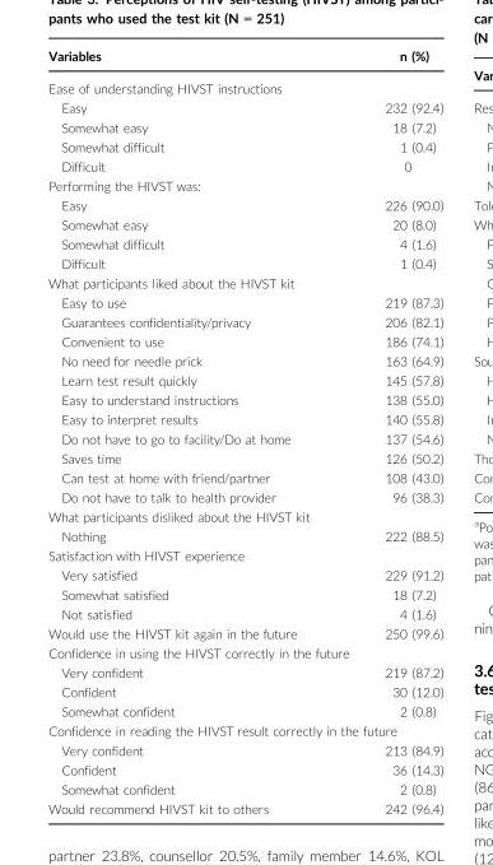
<table><thead><tr><td>Variables</td><td>n (%)</td></tr></thead><tbody><tr><td colspan="2">Ease of understanding HIVST instructions</td></tr><tr><td>Easy</td><td>232 (92.4)</td></tr><tr><td>Somewhat easy</td><td>18 (7.2)</td></tr><tr><td>Somewhat difficult</td><td>1 (0.4)</td></tr><tr><td>Difficult</td><td>0</td></tr><tr><td colspan="2">Performing the HIVST was:</td></tr><tr><td>Easy</td><td>226 (90.0)</td></tr><tr><td>Somewhat easy</td><td>20 (8.0)</td></tr><tr><td>Somewhat difficult</td><td>4 (1.6)</td></tr><tr><td>Difficult</td><td>1 (0.4)</td></tr><tr><td colspan="2">What participants liked about the HIVST kit</td></tr><tr><td>Easy to use</td><td>219 (87.3)</td></tr><tr><td>Guarantees confidentiality/privacy</td><td>206 (82.1)</td></tr><tr><td>Convenient to use</td><td>186 (74.1)</td></tr><tr><td>No need for needle prick</td><td>163 (64.9)</td></tr><tr><td>Learn test result quickly</td><td>145 (57.8)</td></tr><tr><td>Easy to understand instructions</td><td>138 (55.0)</td></tr><tr><td>Easy to interpret results</td><td>140 (55.8)</td></tr><tr><td>Do not have to go to facility/Do at home</td><td>137 (54.6)</td></tr><tr><td>Saves time</td><td>126 (50.2)</td></tr><tr><td>Can test at home with friend/partner</td><td>108 (43.0)</td></tr><tr><td>Do not have to talk to health provider</td><td>96 (38.3)</td></tr><tr><td colspan="2">What participants disliked about the HIVST kit</td></tr><tr><td>Nothing</td><td>222 (88.5)</td></tr><tr><td colspan="2">Satisfaction with HIVST experience</td></tr><tr><td>Very satisfied</td><td>229 (91.2)</td></tr><tr><td>Somewhat satisfied</td><td>18 (7.2)</td></tr><tr><td>Not satisfied</td><td>4 (1.6)</td></tr><tr><td>Would use the HIVST kit again in the future</td><td>250 (99.6)</td></tr><tr><td colspan="2">Confidence in using the HIVST correctly in the future</td></tr><tr><td>Very confident</td><td>219 (87.2)</td></tr><tr><td>Confident</td><td>30 (12.0)</td></tr><tr><td>Somewhat confident</td><td>2 (0.8)</td></tr><tr><td colspan="2">Confidence in reading the HIVST result correctly in the future</td></tr><tr><td>Very confident</td><td>213 (84.9)</td></tr><tr><td>Confident</td><td>36 (14.3)</td></tr><tr><td>Somewhat confident</td><td>2 (0.8)</td></tr><tr><td>Would recommend HIVST kit to others</td><td>242 (96.4)</td></tr></tbody></table>